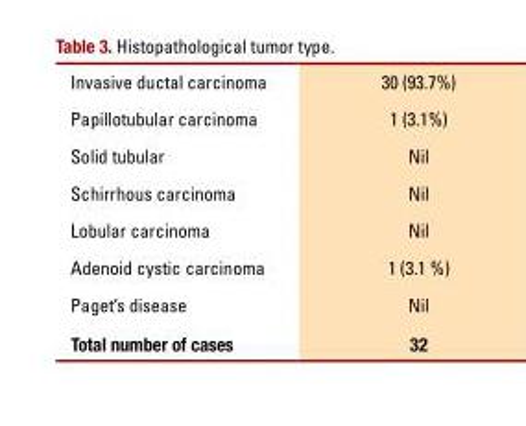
<table><tbody><tr><td>invasive ductal carcinoma</td><td>30 (93.7%)</td></tr><tr><td>Papillotubular carcinoma</td><td>1 (3.1%)</td></tr><tr><td>Solid tubular</td><td>nil</td></tr><tr><td>Schirrhous carcinoma</td><td>nil</td></tr><tr><td>lobular carcinoma</td><td>nil</td></tr><tr><td>Adenoid cystic carcinoma</td><td>1 (3.1 %)</td></tr><tr><td>Paget’s disease</td><td>nil</td></tr><tr><td>Total number of cases</td><td>32</td></tr></tbody></table>